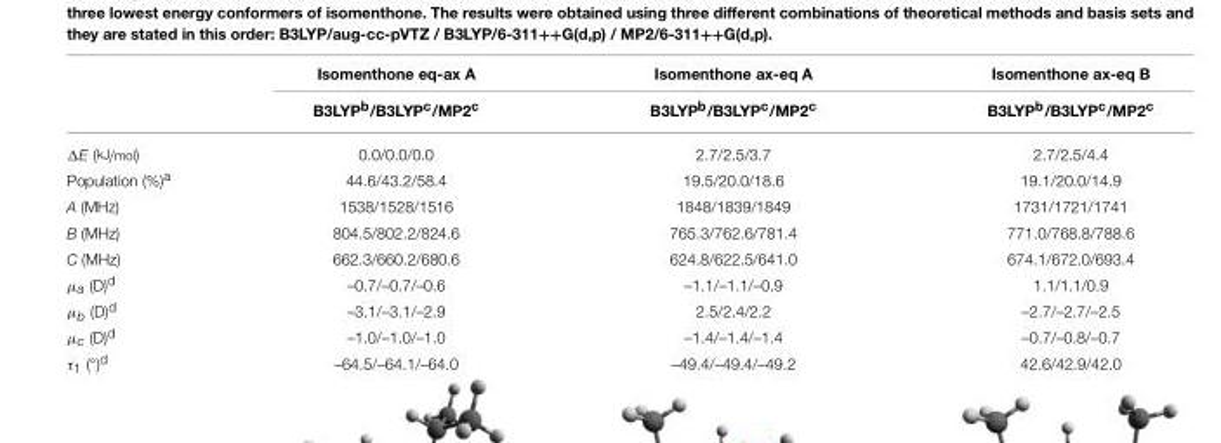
<table><thead><tr><td rowspan="2"></td><td rowspan="2">Isomenthone eq-ax A B3LYP<sup>b</sup>/B3LYP<sup>c</sup>/MP2<sup>c</sup></td><td rowspan="2">Isomenthone ax-eq A B3LYP<sup>b</sup>/B3LYP<sup>c</sup>/MP2<sup>c</sup></td><td rowspan="2">Isomenthone ax-eq B B3LYP<sup>b</sup>/B3LYP<sup>c</sup>/MP2<sup>c</sup></td></tr><tr></tr></thead><tbody><tr><td>ΔE (kJ/mol)</td><td>0.0/0.0/0.0</td><td>2.7/2.5/3.7</td><td>2.7/2.5/4.4</td></tr><tr><td>Population (%)<sup>a</sup></td><td>44.6/43.2/58.4</td><td>19.5/20.0/18.6</td><td>19.1/20.0/14.9</td></tr><tr><td>A (MHz)</td><td>1538/1528/1516</td><td>1848/1839/1849</td><td>1731/1721/1741</td></tr><tr><td>B (MHz)</td><td>804.5/802.2/824.6</td><td>765.3/762.6/781.4</td><td>771.0/768.8/788.6</td></tr><tr><td>C (MHz)</td><td>662.3/660.2/680.6</td><td>624.8/622.5/641.0</td><td>674.1/672.0/693.4</td></tr><tr><td>µ<sub>a</sub> (D)<sup>d</sup></td><td>–0.7/–0.7/–0.6</td><td>–1.1/–1.1/–0.9</td><td>1.1/1.1/0.9</td></tr><tr><td>µ<sub>b</sub> (D)<sup>d</sup></td><td>–3.1/–3.1/–2.9</td><td>2.5/2.4/2.2</td><td>–2.7/–2.7/–2.5</td></tr><tr><td>µ<sub>c</sub> (D)<sup>d</sup></td><td>–1.0/–1.0/–1.0</td><td>–1.4/–1.4/–1.4</td><td>–0.7/–0.8/–0.7</td></tr><tr><td>τ<sub>1</sub> (°)<sup>d</sup></td><td>–64.5/–64.1/–64.0</td><td>–49.4/–49.4/–49.2</td><td>42.6/42.9/42.0</td></tr></tbody></table>